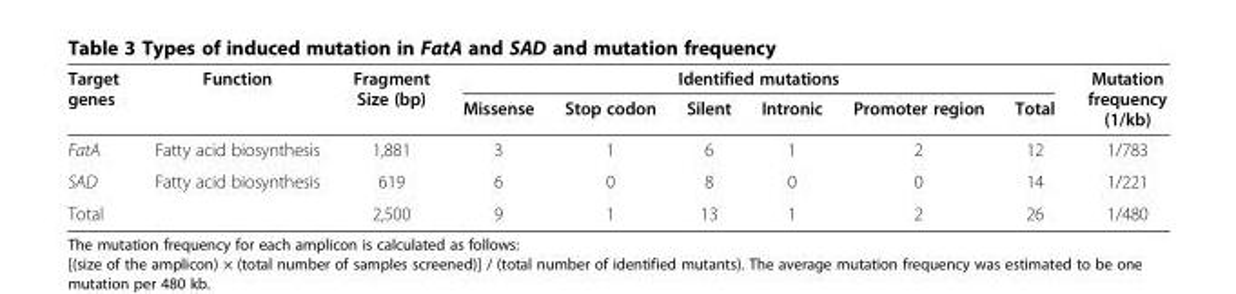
<table><thead><tr><td rowspan="2">Target genes</td><td rowspan="2">Function</td><td rowspan="2">Fragment Size (bp)</td><td colspan="6">Identified mutations</td><td rowspan="2">Mutation frequency (1/kb)</td></tr><tr><td>Missense</td><td>Stop codon</td><td>Silent</td><td>Intronic</td><td>Promoter region</td><td>Total</td></tr></thead><tbody><tr><td>FatA</td><td>Fatty acid biosynthesis</td><td>1,881</td><td>3</td><td>1</td><td>6</td><td>1</td><td>2</td><td>12</td><td>1/783</td></tr><tr><td>SAD</td><td>Fatty acid biosynthesis</td><td>619</td><td>6</td><td>0</td><td>8</td><td>0</td><td>0</td><td>14</td><td>1/221</td></tr><tr><td>Total</td><td></td><td>2,500</td><td>9</td><td>1</td><td>13</td><td>1</td><td>2</td><td>26</td><td>1/480</td></tr></tbody></table>